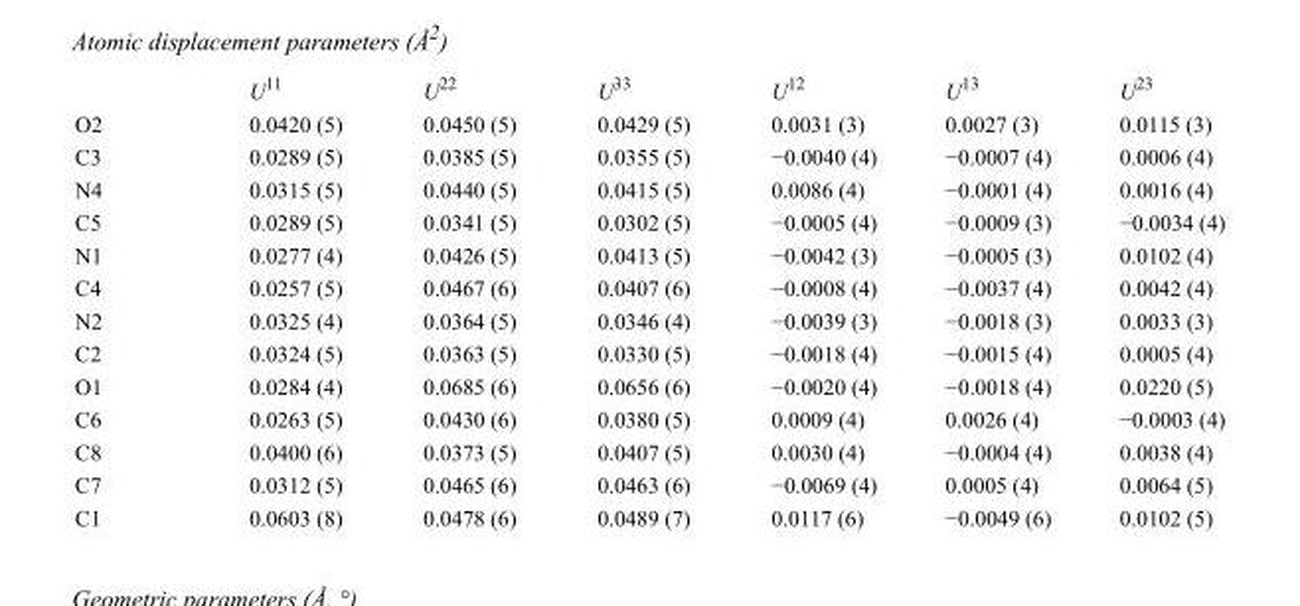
<table><thead><tr><td></td><td>U<sup>11</sup></td><td>U<sup>22</sup></td><td>U<sup>33</sup></td><td>U<sup>12</sup></td><td>U<sup>13</sup></td><td>U<sup>23</sup></td></tr></thead><tbody><tr><td>O2</td><td>0.0420 (5)</td><td>0.0450 (5)</td><td>0.0429 (5)</td><td>0.0031 (3)</td><td>0.0027 (3)</td><td>0.0115 (3)</td></tr><tr><td>C3</td><td>0.0289 (5)</td><td>0.0385 (5)</td><td>0.0355 (5)</td><td>−0.0040 (4)</td><td>−0.0007 (4)</td><td>0.0006 (4)</td></tr><tr><td>N4</td><td>0.0315 (5)</td><td>0.0440 (5)</td><td>0.0415 (5)</td><td>0.0086 (4)</td><td>−0.0001 (4)</td><td>0.0016 (4)</td></tr><tr><td>C5</td><td>0.0289 (5)</td><td>0.0341 (5)</td><td>0.0302 (5)</td><td>−0.0005 (4)</td><td>−0.0009 (3)</td><td>−0.0034 (4)</td></tr><tr><td>N1</td><td>0.0277 (4)</td><td>0.0426 (5)</td><td>0.0413 (5)</td><td>−0.0042 (3)</td><td>−0.0005 (3)</td><td>0.0102 (4)</td></tr><tr><td>C4</td><td>0.0257 (5)</td><td>0.0467 (6)</td><td>0.0407 (6)</td><td>−0.0008 (4)</td><td>−0.0037 (4)</td><td>0.0042 (4)</td></tr><tr><td>N2</td><td>0.0325 (4)</td><td>0.0364 (5)</td><td>0.0346 (4)</td><td>−0.0039 (3)</td><td>−0.0018 (3)</td><td>0.0033 (3)</td></tr><tr><td>C2</td><td>0.0324 (5)</td><td>0.0363 (5)</td><td>0.0330 (5)</td><td>−0.0018 (4)</td><td>−0.0015 (4)</td><td>0.0005 (4)</td></tr><tr><td>O1</td><td>0.0284 (4)</td><td>0.0685 (6)</td><td>0.0656 (6)</td><td>−0.0020 (4)</td><td>−0.0018 (4)</td><td>0.0220 (5)</td></tr><tr><td>C6</td><td>0.0263 (5)</td><td>0.0430 (6)</td><td>0.0380 (5)</td><td>0.0009 (4)</td><td>0.0026 (4)</td><td>−0.0003 (4)</td></tr><tr><td>C8</td><td>0.0400 (6)</td><td>0.0373 (5)</td><td>0.0407 (5)</td><td>0.0030 (4)</td><td>−0.0004 (4)</td><td>0.0038 (4)</td></tr><tr><td>C7</td><td>0.0312 (5)</td><td>0.0465 (6)</td><td>0.0463 (6)</td><td>−0.0069 (4)</td><td>0.0005 (4)</td><td>0.0064 (5)</td></tr><tr><td>C1</td><td>0.0603 (8)</td><td>0.0478 (6)</td><td>0.0489 (7)</td><td>0.0117 (6)</td><td>−0.0049 (6)</td><td>0.0102 (5)</td></tr></tbody></table>